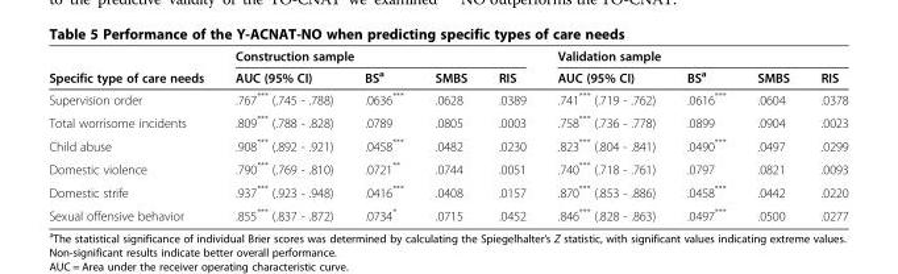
<table><thead><tr><td rowspan="2">Specific type of care needs</td><td colspan="4">Construction sample</td><td colspan="4">Validation sample</td></tr><tr><td>AUC (95% CI)</td><td>BS<sup>a</sup></td><td>SMBS</td><td>RIS</td><td>AUC (95% CI)</td><td>BS<sup>a</sup></td><td>SMBS</td><td>RIS</td></tr></thead><tbody><tr><td>Supervision order</td><td>.767*** (.745 - .788)</td><td>.0636***</td><td>.0628</td><td>.0389</td><td>.741*** (.719 - .762)</td><td>.0616***</td><td>.0604</td><td>.0378</td></tr><tr><td>Total worrisome incidents</td><td>.809*** (.788 - .828)</td><td>.0789</td><td>.0805</td><td>.0003</td><td>.758*** (.736 - .778)</td><td>.0899</td><td>.0904</td><td>.0023</td></tr><tr><td>Child abuse</td><td>.908*** (.892 - .921)</td><td>.0458***</td><td>.0482</td><td>.0230</td><td>.823*** (.804 - .841)</td><td>.0490***</td><td>.0497</td><td>.0299</td></tr><tr><td>Domestic violence</td><td>.790*** (.769 - .810)</td><td>.0721**</td><td>.0744</td><td>.0051</td><td>.740*** (.718 - .761)</td><td>.0797</td><td>.0821</td><td>.0093</td></tr><tr><td>Domestic strife</td><td>.937*** (.923 - .948)</td><td>.0416***</td><td>.0408</td><td>.0157</td><td>.870*** (.853 - .886)</td><td>.0458***</td><td>.0442</td><td>.0220</td></tr><tr><td>Sexual offensive behavior</td><td>.855*** (.837 - .872)</td><td>.0734*</td><td>.0715</td><td>.0452</td><td>.846*** (.828 - .863)</td><td>.0497***</td><td>.0500</td><td>.0277</td></tr></tbody></table>